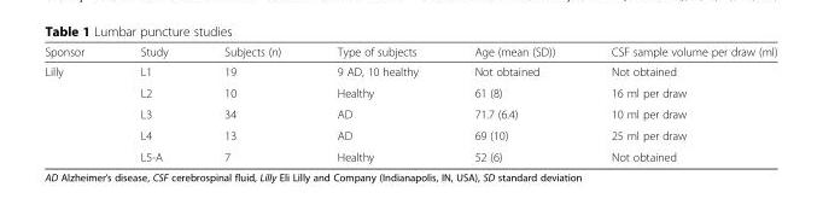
<table><thead><tr><td>Sponsor</td><td>Study</td><td>Subjects (n)</td><td>Type of subjects</td><td>Age (mean (SD))</td><td>CSF sample volume per draw (ml)</td></tr></thead><tbody><tr><td rowspan="5">Lilly</td><td>L1</td><td>19</td><td>9 AD, 10 healthy</td><td>Not obtained</td><td>Not obtained</td></tr><tr><td>L2</td><td>10</td><td>Healthy</td><td>61 (8)</td><td>16 ml per draw</td></tr><tr><td>L3</td><td>34</td><td>AD</td><td>71.7 (6.4)</td><td>10 ml per draw</td></tr><tr><td>L4</td><td>13</td><td>AD</td><td>69 (10)</td><td>25 ml per draw</td></tr><tr><td>L5-A</td><td>7</td><td>Healthy</td><td>52 (6)</td><td>Not obtained</td></tr></tbody></table>